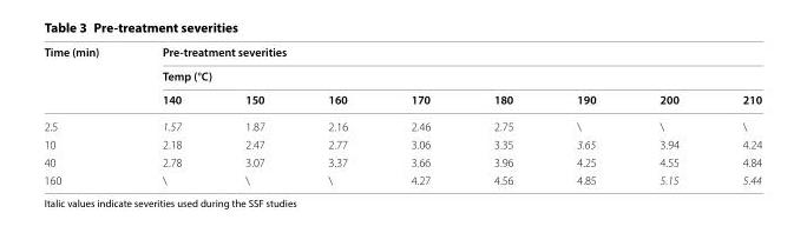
<table><thead><tr><td rowspan="3">Time (min)</td><td rowspan="2" colspan="8">Pre‑treatment severities Temp (°C)</td></tr><tr></tr><tr><td>140</td><td>150</td><td>160</td><td>170</td><td>180</td><td>190</td><td>200</td><td>210</td></tr></thead><tbody><tr><td>2.5</td><td>1.57</td><td>1.87</td><td>2.16</td><td>2.46</td><td>2.75</td><td>\</td><td>\</td><td>\</td></tr><tr><td>10</td><td>2.18</td><td>2.47</td><td>2.77</td><td>3.06</td><td>3.35</td><td>3.65</td><td>3.94</td><td>4.24</td></tr><tr><td>40</td><td>2.78</td><td>3.07</td><td>3.37</td><td>3.66</td><td>3.96</td><td>4.25</td><td>4.55</td><td>4.84</td></tr><tr><td>160</td><td>\</td><td>\</td><td>\</td><td>4.27</td><td>4.56</td><td>4.85</td><td>5.15</td><td>5.44</td></tr></tbody></table>